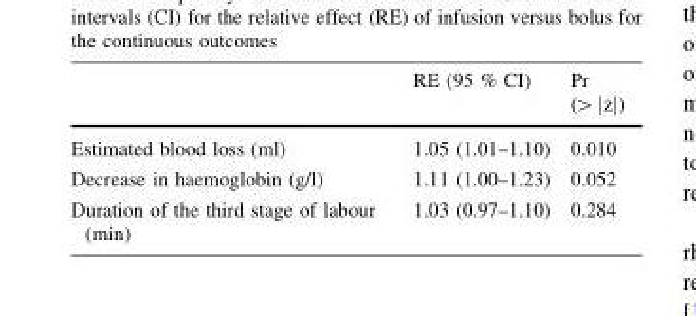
<table><thead><tr><td></td><td>RE (95 % CI)</td><td>Pr (&gt; ∣z∣)</td></tr></thead><tbody><tr><td>Estimated blood loss (ml)</td><td>1.05 (1.01–1.10)</td><td>0.010</td></tr><tr><td>Decrease in haemoglobin (g/l)</td><td>1.11 (1.00–1.23)</td><td>0.052</td></tr><tr><td>Duration of the third stage of labour (min)</td><td>1.03 (0.97–1.10)</td><td>0.284</td></tr></tbody></table>